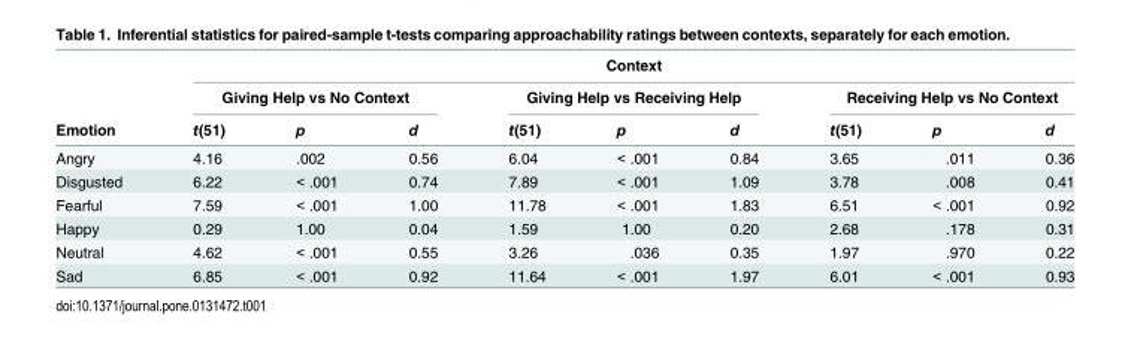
<table><thead><tr><td rowspan="3">Emotion</td><td colspan="9">Context</td></tr><tr><td colspan="3">Giving Help vs No Context</td><td colspan="3">Giving Help vs Receiving Help</td><td colspan="3">Receiving Help vs No Context</td></tr><tr><td>t(51)</td><td>p</td><td>d</td><td>t(51)</td><td>p</td><td>d</td><td>t(51)</td><td>p</td><td>d</td></tr></thead><tbody><tr><td>Angry</td><td>4.16</td><td>.002</td><td>0.56</td><td>6.04</td><td>&lt; .001</td><td>0.84</td><td>3.65</td><td>.011</td><td>0.36</td></tr><tr><td>Disgusted</td><td>6.22</td><td>&lt; .001</td><td>0.74</td><td>7.89</td><td>&lt; .001</td><td>1.09</td><td>3.78</td><td>.008</td><td>0.41</td></tr><tr><td>Fearful</td><td>7.59</td><td>&lt; .001</td><td>1.00</td><td>11.78</td><td>&lt; .001</td><td>1.83</td><td>6.51</td><td>&lt; .001</td><td>0.92</td></tr><tr><td>Happy</td><td>0.29</td><td>1.00</td><td>0.04</td><td>1.59</td><td>1.00</td><td>0.20</td><td>2.68</td><td>.178</td><td>0.31</td></tr><tr><td>Neutral</td><td>4.62</td><td>&lt; .001</td><td>0.55</td><td>3.26</td><td>.036</td><td>0.35</td><td>1.97</td><td>.970</td><td>0.22</td></tr><tr><td>Sad</td><td>6.85</td><td>&lt; .001</td><td>0.92</td><td>11.64</td><td>&lt; .001</td><td>1.97</td><td>6.01</td><td>&lt; .001</td><td>0.93</td></tr></tbody></table>